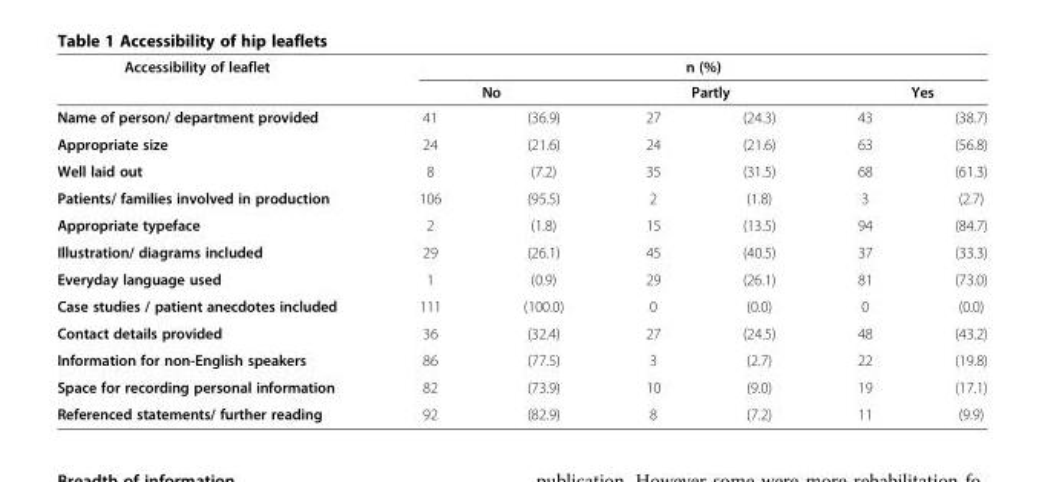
<table><thead><tr><td rowspan="3">Accessibility of leaflet Name of person/ department provided</td><td colspan="6">n (%)</td></tr><tr><td colspan="2">No</td><td colspan="2">Partly</td><td colspan="2">Yes</td></tr><tr><td>41</td><td>(36.9)</td><td>27</td><td>(24.3)</td><td>43</td><td>(38.7)</td></tr></thead><tbody><tr><td>Appropriate size</td><td>24</td><td>(21.6)</td><td>24</td><td>(21.6)</td><td>63</td><td>(56.8)</td></tr><tr><td>Well laid out</td><td>8</td><td>(7.2)</td><td>35</td><td>(31.5)</td><td>68</td><td>(61.3)</td></tr><tr><td>Patients/ families involved in production</td><td>106</td><td>(95.5)</td><td>2</td><td>(1.8)</td><td>3</td><td>(2.7)</td></tr><tr><td>Appropriate typeface</td><td>2</td><td>(1.8)</td><td>15</td><td>(13.5)</td><td>94</td><td>(84.7)</td></tr><tr><td>Illustration/ diagrams included</td><td>29</td><td>(26.1)</td><td>45</td><td>(40.5)</td><td>37</td><td>(33.3)</td></tr><tr><td>Everyday language used</td><td>1</td><td>(0.9)</td><td>29</td><td>(26.1)</td><td>81</td><td>(73.0)</td></tr><tr><td>Case studies / patient anecdotes included</td><td>111</td><td>(100.0)</td><td>0</td><td>(0.0)</td><td>0</td><td>(0.0)</td></tr><tr><td>Contact details provided</td><td>36</td><td>(32.4)</td><td>27</td><td>(24.5)</td><td>48</td><td>(43.2)</td></tr><tr><td>Information for non-English speakers</td><td>86</td><td>(77.5)</td><td>3</td><td>(2.7)</td><td>22</td><td>(19.8)</td></tr><tr><td>Space for recording personal information</td><td>82</td><td>(73.9)</td><td>10</td><td>(9.0)</td><td>19</td><td>(17.1)</td></tr><tr><td>Referenced statements/ further reading</td><td>92</td><td>(82.9)</td><td>8</td><td>(7.2)</td><td>11</td><td>(9.9)</td></tr></tbody></table>